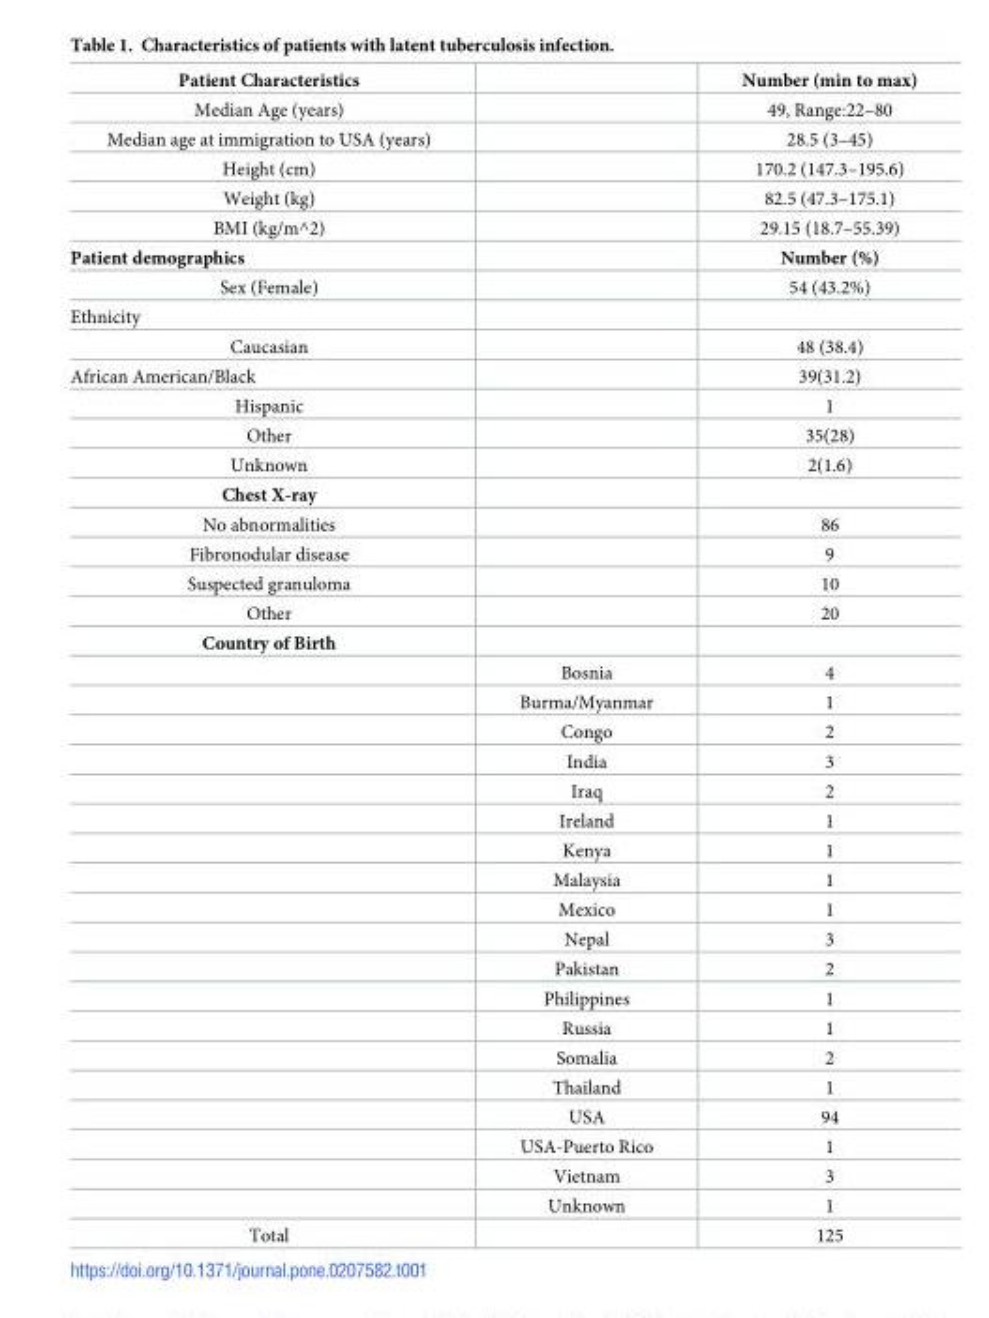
<table><thead><tr><td>Patient Characteristics</td><td></td><td>Number (min to max)</td></tr></thead><tbody><tr><td>Median Age (years)</td><td></td><td>49, Range:22–80</td></tr><tr><td>Median age at immigration to USA (years)</td><td></td><td>28.5 (3–45)</td></tr><tr><td>Height (cm)</td><td></td><td>170.2 (147.3–195.6)</td></tr><tr><td>Weight (kg)</td><td></td><td>82.5 (47.3–175.1)</td></tr><tr><td>BMI (kg/m^2)</td><td></td><td>29.15 (18.7–55.39)</td></tr><tr><td>Patient demographics</td><td></td><td>Number (%)</td></tr><tr><td>Sex (Female)</td><td></td><td>54 (43.2%)</td></tr><tr><td colspan="3">Ethnicity</td></tr><tr><td>Caucasian</td><td></td><td>48 (38.4)</td></tr><tr><td>African American/Black</td><td></td><td>39(31.2)</td></tr><tr><td>Hispanic</td><td></td><td>1</td></tr><tr><td>Other</td><td></td><td>35(28)</td></tr><tr><td>Unknown</td><td></td><td>2(1.6)</td></tr><tr><td colspan="3">Chest X-ray</td></tr><tr><td>No abnormalities</td><td></td><td>86</td></tr><tr><td>Fibronodular disease</td><td></td><td>9</td></tr><tr><td>Suspected granuloma</td><td></td><td>10</td></tr><tr><td>Other</td><td></td><td>20</td></tr><tr><td colspan="3">Country of Birth</td></tr><tr><td></td><td>Bosnia</td><td>4</td></tr><tr><td></td><td>Burma/Myanmar</td><td>1</td></tr><tr><td></td><td>Congo</td><td>2</td></tr><tr><td></td><td>India</td><td>3</td></tr><tr><td></td><td>Iraq</td><td>2</td></tr><tr><td></td><td>Ireland</td><td>1</td></tr><tr><td></td><td>Kenya</td><td>1</td></tr><tr><td></td><td>Malaysia</td><td>1</td></tr><tr><td></td><td>Mexico</td><td>1</td></tr><tr><td></td><td>Nepal</td><td>3</td></tr><tr><td></td><td>Pakistan</td><td>2</td></tr><tr><td></td><td>Philippines</td><td>1</td></tr><tr><td></td><td>Russia</td><td>1</td></tr><tr><td></td><td>Somalia</td><td>2</td></tr><tr><td></td><td>Thailand</td><td>1</td></tr><tr><td></td><td>USA</td><td>94</td></tr><tr><td></td><td>USA-Puerto Rico</td><td>1</td></tr><tr><td></td><td>Vietnam</td><td>3</td></tr><tr><td></td><td>Unknown</td><td>1</td></tr><tr><td>Total</td><td></td><td>125</td></tr></tbody></table>